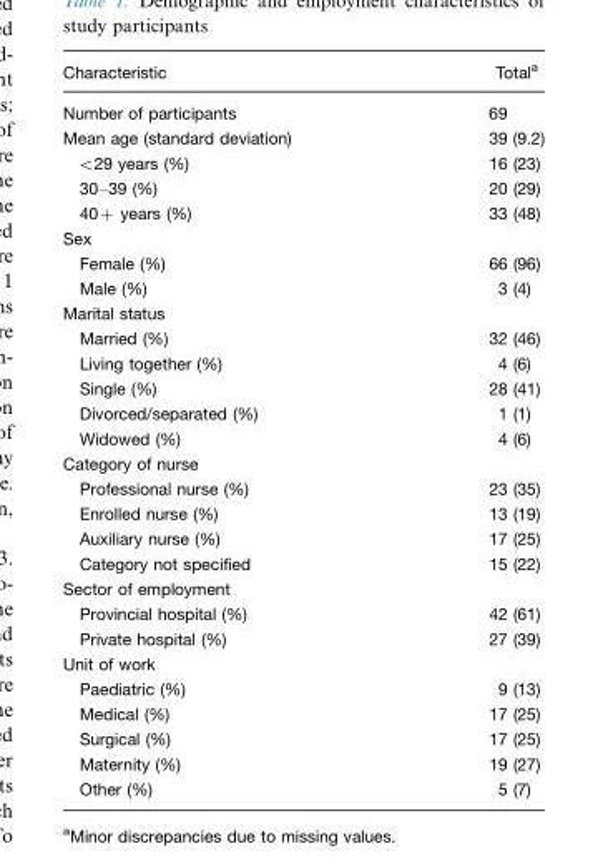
<table><thead><tr><td>Characteristic</td><td>Total<sup>a</sup></td></tr></thead><tbody><tr><td>Number of participants</td><td>69</td></tr><tr><td>Mean age (standard deviation)</td><td>39 (9.2)</td></tr><tr><td>&lt;29 years (%)</td><td>16 (23)</td></tr><tr><td>30–39 (%)</td><td>20 (29)</td></tr><tr><td>40+ years (%)</td><td>33 (48)</td></tr><tr><td colspan="2">Sex</td></tr><tr><td>Female (%)</td><td>66 (96)</td></tr><tr><td>Male (%)</td><td>3 (4)</td></tr><tr><td colspan="2">Marital status</td></tr><tr><td>Married (%)</td><td>32 (46)</td></tr><tr><td>Living together (%)</td><td>4 (6)</td></tr><tr><td>Single (%)</td><td>28 (41)</td></tr><tr><td>Divorced/separated (%)</td><td>1 (1)</td></tr><tr><td>Widowed (%)</td><td>4 (6)</td></tr><tr><td colspan="2">Category of nurse</td></tr><tr><td>Professional nurse (%)</td><td>23 (35)</td></tr><tr><td>Enrolled nurse (%)</td><td>13 (19)</td></tr><tr><td>Auxiliary nurse (%)</td><td>17 (25)</td></tr><tr><td>Category not specified</td><td>15 (22)</td></tr><tr><td colspan="2">Sector of employment</td></tr><tr><td>Provincial hospital (%)</td><td>42 (61)</td></tr><tr><td>Private hospital (%)</td><td>27 (39)</td></tr><tr><td colspan="2">Unit of work</td></tr><tr><td>Paediatric (%)</td><td>9 (13)</td></tr><tr><td>Medical (%)</td><td>17 (25)</td></tr><tr><td>Surgical (%)</td><td>17 (25)</td></tr><tr><td>Maternity (%)</td><td>19 (27)</td></tr><tr><td>Other (%)</td><td>5 (7)</td></tr></tbody></table>